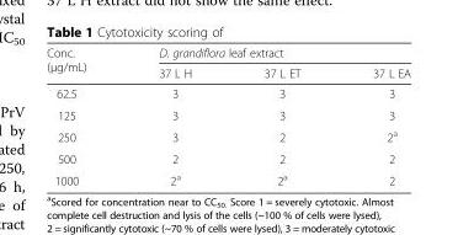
<table><thead><tr><td rowspan="2">Conc. (μg/mL)</td><td colspan="3">D. grandiflora leaf extract</td></tr><tr><td>37 L H</td><td>37 L ET</td><td>37 L EA</td></tr></thead><tbody><tr><td>62.5</td><td>3</td><td>3</td><td>3</td></tr><tr><td>125</td><td>3</td><td>3</td><td>3</td></tr><tr><td>250</td><td>3</td><td>2</td><td>2<sup>a</sup></td></tr><tr><td>500</td><td>2</td><td>2</td><td>2</td></tr><tr><td>1000</td><td>2<sup>a</sup></td><td>2<sup>a</sup></td><td>2</td></tr></tbody></table>